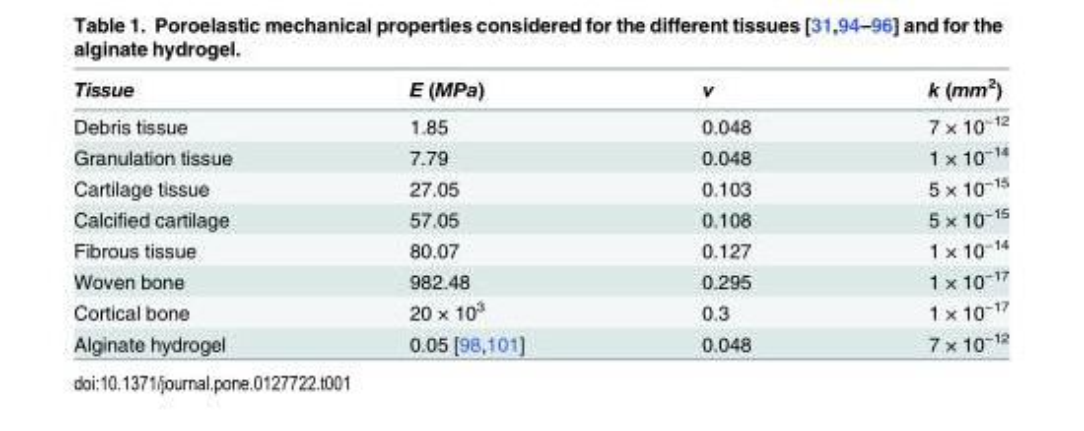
<table><thead><tr><td>Tissue</td><td>E (MPa)</td><td>ν</td><td>k (mm<sup>2</sup>)</td></tr></thead><tbody><tr><td>Debris tissue</td><td>1.85</td><td>0.048</td><td>7 × 10<sup>−12</sup></td></tr><tr><td>Granulation tissue</td><td>7.79</td><td>0.048</td><td>1 × 10<sup>−14</sup></td></tr><tr><td>Cartilage tissue</td><td>27.05</td><td>0.103</td><td>5 × 10<sup>−15</sup></td></tr><tr><td>Calcified cartilage</td><td>57.05</td><td>0.108</td><td>5 × 10<sup>−15</sup></td></tr><tr><td>Fibrous tissue</td><td>80.07</td><td>0.127</td><td>1 × 10<sup>−14</sup></td></tr><tr><td>Woven bone</td><td>982.48</td><td>0.295</td><td>1 × 10<sup>−17</sup></td></tr><tr><td>Cortical bone</td><td>20 × 10<sup>3</sup></td><td>0.3</td><td>1 × 10<sup>−17</sup></td></tr><tr><td>Alginate hydrogel</td><td>0.05 [98,101]</td><td>0.048</td><td>7 × 10<sup>−12</sup></td></tr></tbody></table>